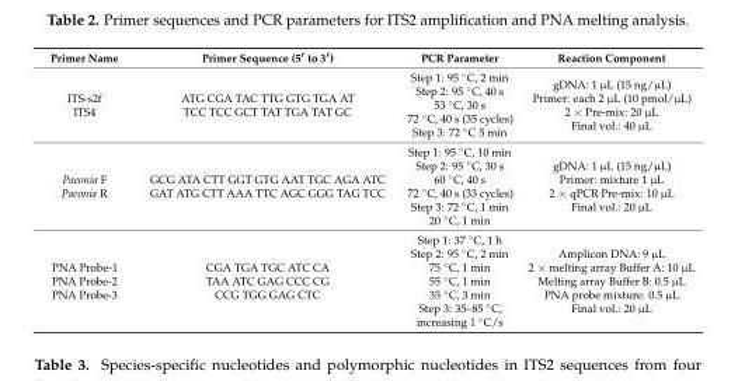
<table><thead><tr><td>Primer Name</td><td>Primer Sequence (5′ to 3′)</td><td>PCR Parameter</td><td>Reaction Component</td></tr></thead><tbody><tr><td>ITS-s2f ITS4</td><td>ATG CGA TAC TTG GTG TGA AT TCC TCC GCT TAT TGA TAT GC</td><td>Step 1: 95 ◦C, 2 min Step 2: 95 ◦C, 40 s 53 ◦C, 30 s 72 ◦C, 40 s (35 cycles) Step 3: 72 ◦C 5 min</td><td>gDNA: 1 µL (15 ng/µL) Primer: each 2 µL (10 pmol/µL) 2 × Pre-mix: 20 µL Final vol.: 40 µL</td></tr><tr><td>Paeonia F Paeonia R</td><td>GCG ATA CTT GGT GTG AAT TGC AGA ATC GAT ATG CTT AAA TTC AGC GGG TAG TCC</td><td>Step 1: 95 ◦C, 10 min Step 2: 95 ◦C, 30 s 60 ◦C, 40 s 72 ◦C, 40 s (33 cycles) Step 3: 72 ◦C, 1 min 20 ◦C, 1 min</td><td>gDNA: 1 µL (15 ng/µL) Primer: mixture 1 µL 2 × qPCR Pre-mix: 10 µL Final vol.: 20 µL</td></tr><tr><td>PNA Probe-1 PNA Probe-2 PNA Probe-3</td><td>CGA TGA TGC ATC CA TAA ATC GAG CCC CG CCG TGG GAG CTC</td><td>Step 1: 37 ◦C, 1 h Step 2: 95 ◦C, 2 min 75 ◦C, 1 min 55 ◦C, 1 min 35 ◦C, 3 min Step 3: 35–85 ◦C, increasing 1 ◦C/s</td><td>Amplicon DNA: 9 µL 2 × melting array Buffer A: 10 µL Melting array Buffer B: 0.5 µL PNA probe mixture: 0.5 µL Final vol.: 20 µL</td></tr></tbody></table>